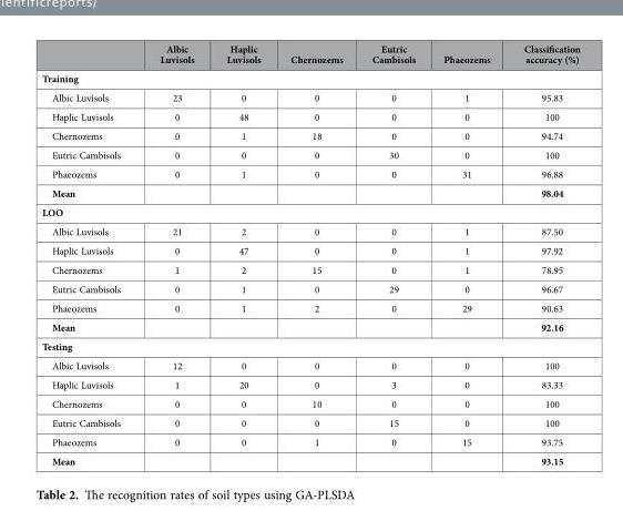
<table><thead><tr><td></td><td>Albic Luvisols</td><td>Haplic Luvisols</td><td>Chernozems</td><td>Eutric Cambisols</td><td>Phaeozems</td><td>Classification accuracy (%)</td></tr></thead><tbody><tr><td colspan="7">Training</td></tr><tr><td>Albic Luvisols</td><td>23</td><td>0</td><td>0</td><td>0</td><td>1</td><td>95.83</td></tr><tr><td>Haplic Luvisols</td><td>0</td><td>48</td><td>0</td><td>0</td><td>0</td><td>100</td></tr><tr><td>Chernozems</td><td>0</td><td>1</td><td>18</td><td>0</td><td>0</td><td>94.74</td></tr><tr><td>Eutric Cambisols</td><td>0</td><td>0</td><td>0</td><td>30</td><td>0</td><td>100</td></tr><tr><td>Phaeozems</td><td>0</td><td>1</td><td>0</td><td>0</td><td>31</td><td>96.88</td></tr><tr><td>Mean</td><td></td><td></td><td></td><td></td><td></td><td>98.04</td></tr><tr><td colspan="7">LOO</td></tr><tr><td>Albic Luvisols</td><td>21</td><td>2</td><td>0</td><td>0</td><td>1</td><td>87.50</td></tr><tr><td>Haplic Luvisols</td><td>0</td><td>47</td><td>0</td><td>0</td><td>1</td><td>97.92</td></tr><tr><td>Chernozems</td><td>1</td><td>2</td><td>15</td><td>0</td><td>1</td><td>78.95</td></tr><tr><td>Eutric Cambisols</td><td>0</td><td>1</td><td>0</td><td>29</td><td>0</td><td>96.67</td></tr><tr><td>Phaeozems</td><td>0</td><td>1</td><td>2</td><td>0</td><td>29</td><td>90.63</td></tr><tr><td>Mean</td><td></td><td></td><td></td><td></td><td></td><td>92.16</td></tr><tr><td colspan="7">Testing</td></tr><tr><td>Albic Luvisols</td><td>12</td><td>0</td><td>0</td><td>0</td><td>0</td><td>100</td></tr><tr><td>Haplic Luvisols</td><td>1</td><td>20</td><td>0</td><td>3</td><td>0</td><td>83.33</td></tr><tr><td>Chernozems</td><td>0</td><td>0</td><td>10</td><td>0</td><td>0</td><td>100</td></tr><tr><td>Eutric Cambisols</td><td>0</td><td>0</td><td>0</td><td>15</td><td>0</td><td>100</td></tr><tr><td>Phaeozems</td><td>0</td><td>0</td><td>1</td><td>0</td><td>15</td><td>93.75</td></tr><tr><td>Mean</td><td></td><td></td><td></td><td></td><td></td><td>93.15</td></tr></tbody></table>